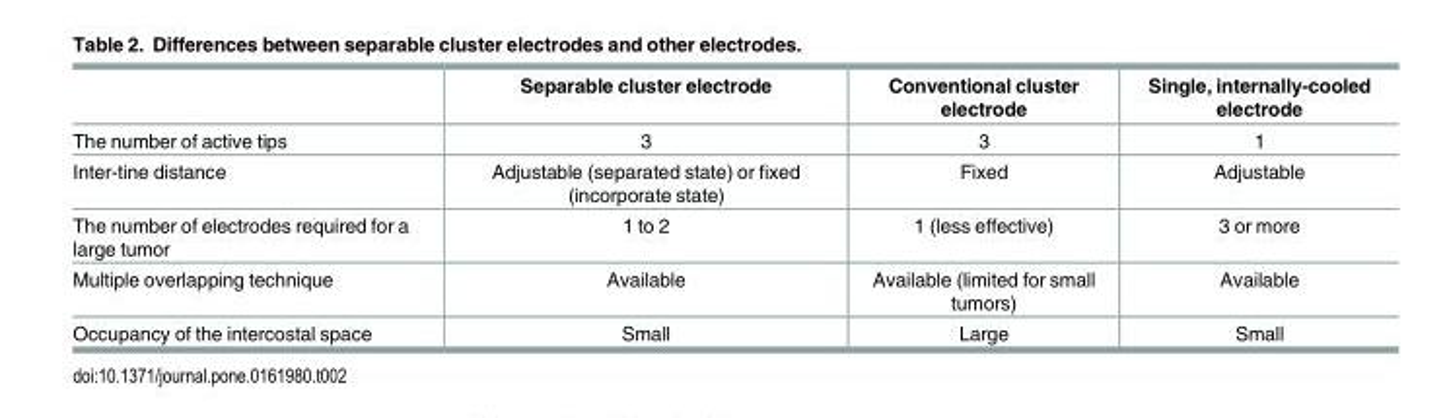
<table><thead><tr><td></td><td>Separable cluster electrode</td><td>Conventional cluster electrode</td><td>Single, internally-cooled electrode</td></tr></thead><tbody><tr><td>The number of active tips</td><td>3</td><td>3</td><td>1</td></tr><tr><td>Inter-tine distance</td><td>Adjustable (separated state) or fixed (incorporate state)</td><td>Fixed</td><td>Adjustable</td></tr><tr><td>The number of electrodes required for a large tumor</td><td>1 to 2</td><td>1 (less effective)</td><td>3 or more</td></tr><tr><td>Multiple overlapping technique</td><td>Available</td><td>Available (limited for small tumors)</td><td>Available</td></tr><tr><td>Occupancy of the intercostal space</td><td>Small</td><td>Large</td><td>Small</td></tr></tbody></table>